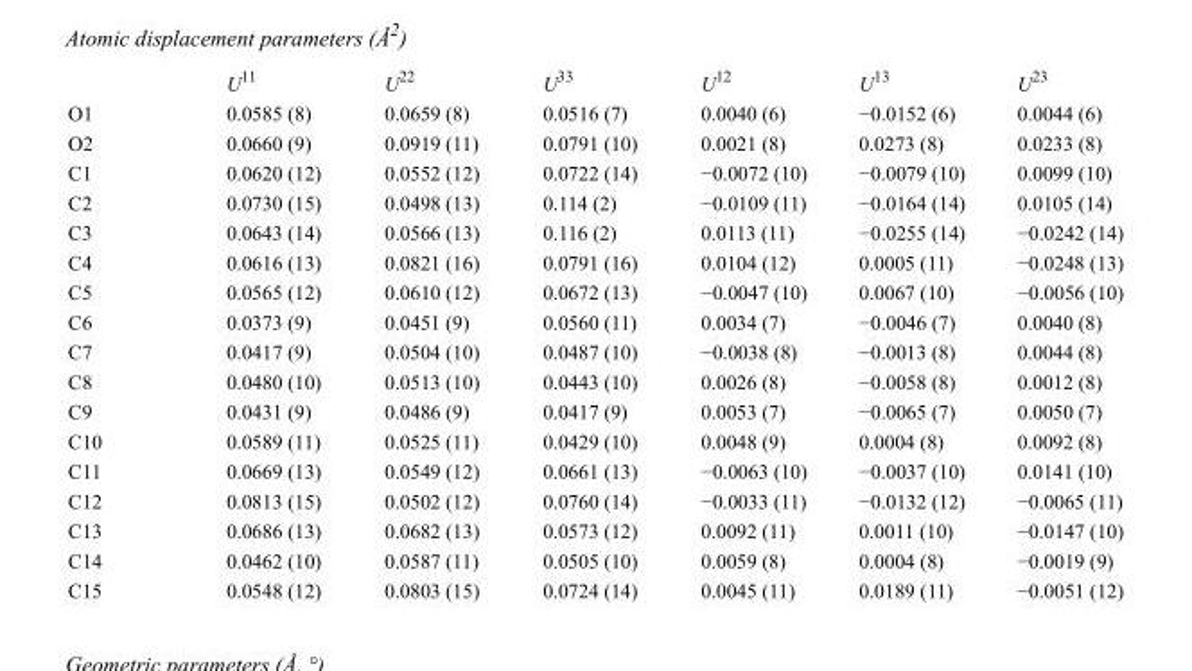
<table><thead><tr><td></td><td>U<sup>11</sup></td><td>U<sup>22</sup></td><td>U<sup>33</sup></td><td>U<sup>12</sup></td><td>U<sup>13</sup></td><td>U<sup>23</sup></td></tr></thead><tbody><tr><td>O1</td><td>0.0585 (8)</td><td>0.0659 (8)</td><td>0.0516 (7)</td><td>0.0040 (6)</td><td>−0.0152 (6)</td><td>0.0044 (6)</td></tr><tr><td>O2</td><td>0.0660 (9)</td><td>0.0919 (11)</td><td>0.0791 (10)</td><td>0.0021 (8)</td><td>0.0273 (8)</td><td>0.0233 (8)</td></tr><tr><td>C1</td><td>0.0620 (12)</td><td>0.0552 (12)</td><td>0.0722 (14)</td><td>−0.0072 (10)</td><td>−0.0079 (10)</td><td>0.0099 (10)</td></tr><tr><td>C2</td><td>0.0730 (15)</td><td>0.0498 (13)</td><td>0.114 (2)</td><td>−0.0109 (11)</td><td>−0.0164 (14)</td><td>0.0105 (14)</td></tr><tr><td>C3</td><td>0.0643 (14)</td><td>0.0566 (13)</td><td>0.116 (2)</td><td>0.0113 (11)</td><td>−0.0255 (14)</td><td>−0.0242 (14)</td></tr><tr><td>C4</td><td>0.0616 (13)</td><td>0.0821 (16)</td><td>0.0791 (16)</td><td>0.0104 (12)</td><td>0.0005 (11)</td><td>−0.0248 (13)</td></tr><tr><td>C5</td><td>0.0565 (12)</td><td>0.0610 (12)</td><td>0.0672 (13)</td><td>−0.0047 (10)</td><td>0.0067 (10)</td><td>−0.0056 (10)</td></tr><tr><td>C6</td><td>0.0373 (9)</td><td>0.0451 (9)</td><td>0.0560 (11)</td><td>0.0034 (7)</td><td>−0.0046 (7)</td><td>0.0040 (8)</td></tr><tr><td>C7</td><td>0.0417 (9)</td><td>0.0504 (10)</td><td>0.0487 (10)</td><td>−0.0038 (8)</td><td>−0.0013 (8)</td><td>0.0044 (8)</td></tr><tr><td>C8</td><td>0.0480 (10)</td><td>0.0513 (10)</td><td>0.0443 (10)</td><td>0.0026 (8)</td><td>−0.0058 (8)</td><td>0.0012 (8)</td></tr><tr><td>C9</td><td>0.0431 (9)</td><td>0.0486 (9)</td><td>0.0417 (9)</td><td>0.0053 (7)</td><td>−0.0065 (7)</td><td>0.0050 (7)</td></tr><tr><td>C10</td><td>0.0589 (11)</td><td>0.0525 (11)</td><td>0.0429 (10)</td><td>0.0048 (9)</td><td>0.0004 (8)</td><td>0.0092 (8)</td></tr><tr><td>C11</td><td>0.0669 (13)</td><td>0.0549 (12)</td><td>0.0661 (13)</td><td>−0.0063 (10)</td><td>−0.0037 (10)</td><td>0.0141 (10)</td></tr><tr><td>C12</td><td>0.0813 (15)</td><td>0.0502 (12)</td><td>0.0760 (14)</td><td>−0.0033 (11)</td><td>−0.0132 (12)</td><td>−0.0065 (11)</td></tr><tr><td>C13</td><td>0.0686 (13)</td><td>0.0682 (13)</td><td>0.0573 (12)</td><td>0.0092 (11)</td><td>0.0011 (10)</td><td>−0.0147 (10)</td></tr><tr><td>C14</td><td>0.0462 (10)</td><td>0.0587 (11)</td><td>0.0505 (10)</td><td>0.0059 (8)</td><td>0.0004 (8)</td><td>−0.0019 (9)</td></tr><tr><td>C15</td><td>0.0548 (12)</td><td>0.0803 (15)</td><td>0.0724 (14)</td><td>0.0045 (11)</td><td>0.0189 (11)</td><td>−0.0051 (12)</td></tr></tbody></table>